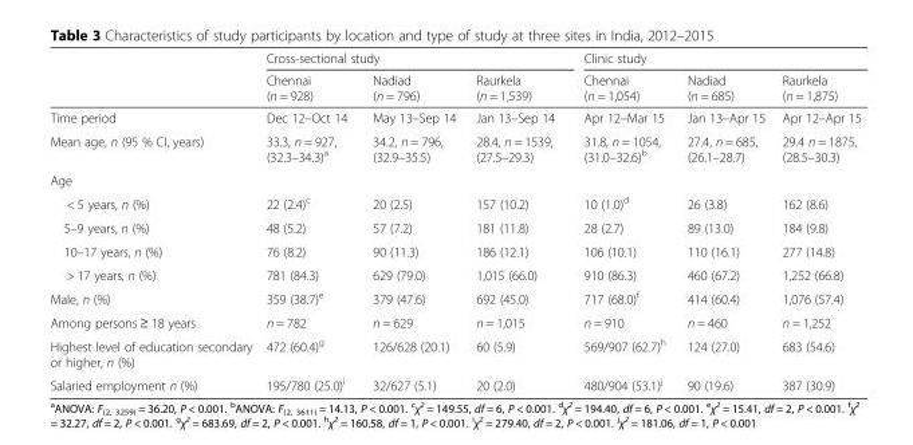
<table><thead><tr><td rowspan="2"></td><td colspan="3">Cross-sectional study</td><td colspan="3">Clinic study</td></tr><tr><td>Chennai (n = 928)</td><td>Nadiad (n = 796)</td><td>Raurkela (n = 1,539)</td><td>Chennai (n = 1,054)</td><td>Nadiad (n = 685)</td><td>Raurkela (n = 1,875)</td></tr></thead><tbody><tr><td>Time period</td><td>Dec 12–Oct 14</td><td>May 13–Sep 14</td><td>Jan 13–Sep 14</td><td>Apr 12–Mar 15</td><td>Jan 13–Apr 15</td><td>Apr 12–Apr 15</td></tr><tr><td>Mean age, n (95 % CI, years)</td><td>33.3, n = 927, (32.3–34.3)<sup>a</sup></td><td>34.2, n = 796, (32.9–35.5)</td><td>28.4, n = 1539, (27.5–29.3)</td><td>31.8, n = 1054, (31.0–32.6)<sup>b</sup></td><td>27.4, n = 685, (26.1–28.7)</td><td>29.4 n = 1875, (28.5–30.3)</td></tr><tr><td colspan="7">Age</td></tr><tr><td>&lt; 5 years, n (%)</td><td>22 (2.4)<sup>c</sup></td><td>20 (2.5)</td><td>157 (10.2)</td><td>10 (1.0)<sup>d</sup></td><td>26 (3.8)</td><td>162 (8.6)</td></tr><tr><td>5–9 years, n (%)</td><td>48 (5.2)</td><td>57 (7.2)</td><td>181 (11.8)</td><td>28 (2.7)</td><td>89 (13.0)</td><td>184 (9.8)</td></tr><tr><td>10–17 years, n (%)</td><td>76 (8.2)</td><td>90 (11.3)</td><td>186 (12.1)</td><td>106 (10.1)</td><td>110 (16.1)</td><td>277 (14.8)</td></tr><tr><td>&gt; 17 years, n (%)</td><td>781 (84.3)</td><td>629 (79.0)</td><td>1,015 (66.0)</td><td>910 (86.3)</td><td>460 (67.2)</td><td>1,252 (66.8)</td></tr><tr><td>Male, n (%)</td><td>359 (38.7)<sup>e</sup></td><td>379 (47.6)</td><td>692 (45.0)</td><td>717 (68.0)<sup>f</sup></td><td>414 (60.4)</td><td>1,076 (57.4)</td></tr><tr><td>Among persons ≥ 18 years</td><td>n = 782</td><td>n = 629</td><td>n = 1,015</td><td>n = 910</td><td>n = 460</td><td>n = 1,252</td></tr><tr><td>Highest level of education secondary or higher, n (%)</td><td>472 (60.4)<sup>g</sup></td><td>126/628 (20.1)</td><td>60 (5.9)</td><td>569/907 (62.7)<sup>h</sup></td><td>124 (27.0)</td><td>683 (54.6)</td></tr><tr><td>Salaried employment n (%)</td><td>195/780 (25.0)<sup>i</sup></td><td>32/627 (5.1)</td><td>20 (2.0)</td><td>480/904 (53.1)<sup>j</sup></td><td>90 (19.6)</td><td>387 (30.9)</td></tr></tbody></table>